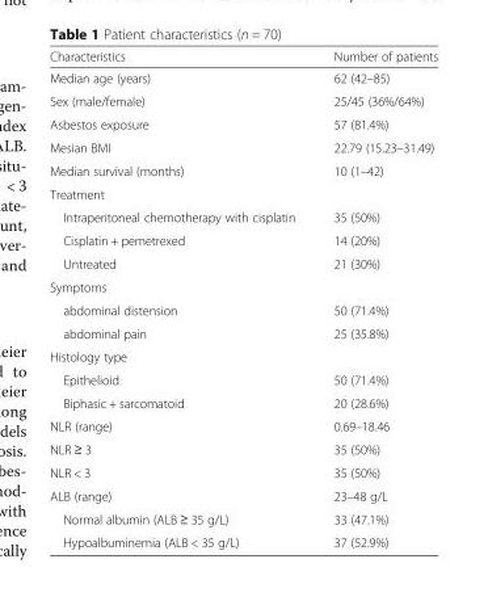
<table><thead><tr><td>Characteristics</td><td>Number of patients</td></tr></thead><tbody><tr><td>Median age (years)</td><td>62 (42–85)</td></tr><tr><td>Sex (male/female)</td><td>25/45 (36%/64%)</td></tr><tr><td>Asbestos exposure</td><td>57 (81.4%)</td></tr><tr><td>Mesian BMI</td><td>22.79 (15.23–31.49)</td></tr><tr><td>Median survival (months)</td><td>10 (1–42)</td></tr><tr><td colspan="2">Treatment</td></tr><tr><td>Intraperitoneal chemotherapy with cisplatin</td><td>35 (50%)</td></tr><tr><td>Cisplatin + pemetrexed</td><td>14 (20%)</td></tr><tr><td>Untreated</td><td>21 (30%)</td></tr><tr><td colspan="2">Symptoms</td></tr><tr><td>abdominal distension</td><td>50 (71.4%)</td></tr><tr><td>abdominal pain</td><td>25 (35.8%)</td></tr><tr><td colspan="2">Histology type</td></tr><tr><td>Epithelioid</td><td>50 (71.4%)</td></tr><tr><td>Biphasic + sarcomatoid</td><td>20 (28.6%)</td></tr><tr><td>NLR (range)</td><td>0.69–18.46</td></tr><tr><td>NLR ≥ 3</td><td>35 (50%)</td></tr><tr><td>NLR &lt; 3</td><td>35 (50%)</td></tr><tr><td>ALB (range)</td><td>23–48 g/L</td></tr><tr><td>Normal albumin (ALB ≥ 35 g/L)</td><td>33 (47.1%)</td></tr><tr><td>Hypoalbuminemia (ALB &lt; 35 g/L)</td><td>37 (52.9%)</td></tr></tbody></table>